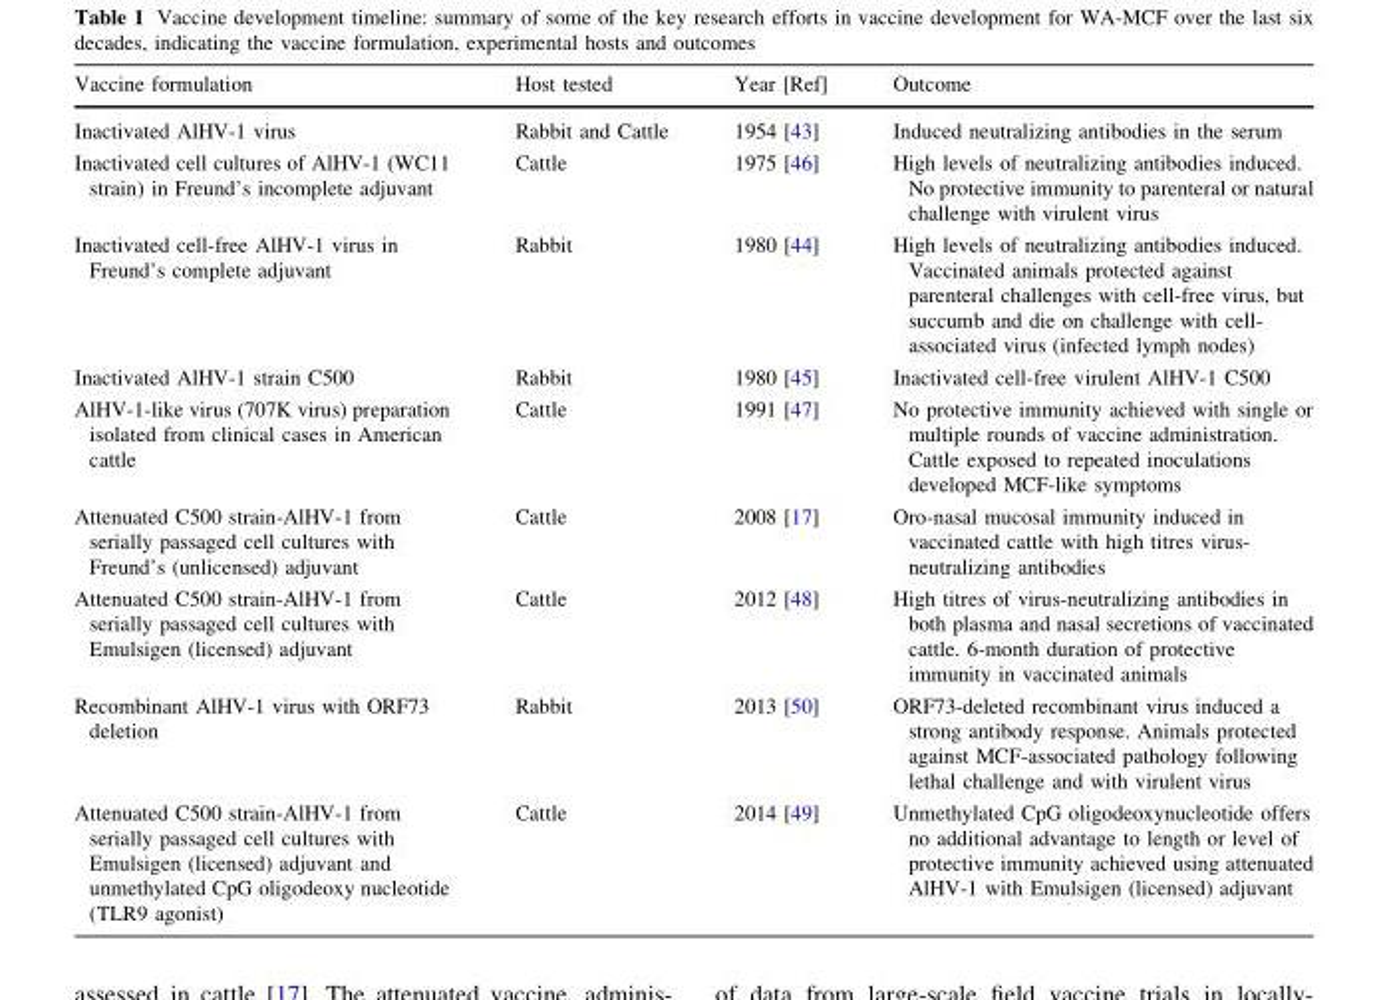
<table><thead><tr><td>Vaccine formulation</td><td>Host tested</td><td>Year [Ref]</td><td>Outcome</td></tr></thead><tbody><tr><td>Inactivated AlHV-1 virus</td><td>Rabbit and Cattle</td><td>1954 [43]</td><td>Induced neutralizing antibodies in the serum</td></tr><tr><td>Inactivated cell cultures of AlHV-1 (WC11 strain) in Freund’s incomplete adjuvant</td><td>Cattle</td><td>1975 [46]</td><td>High levels of neutralizing antibodies induced. No protective immunity to parenteral or natural challenge with virulent virus</td></tr><tr><td>Inactivated cell-free AlHV-1 virus in Freund’s complete adjuvant</td><td>Rabbit</td><td>1980 [44]</td><td>High levels of neutralizing antibodies induced. Vaccinated animals protected against parenteral challenges with cell-free virus, but succumb and die on challenge with cell- associated virus (infected lymph nodes)</td></tr><tr><td>Inactivated AlHV-1 strain C500</td><td>Rabbit</td><td>1980 [45]</td><td>Inactivated cell-free virulent AlHV-1 C500</td></tr><tr><td>AlHV-1-like virus (707K virus) preparation isolated from clinical cases in American cattle</td><td>Cattle</td><td>1991 [47]</td><td>No protective immunity achieved with single or multiple rounds of vaccine administration. Cattle exposed to repeated inoculations developed MCF-like symptoms</td></tr><tr><td>Attenuated C500 strain-AlHV-1 from serially passaged cell cultures with Freund’s (unlicensed) adjuvant</td><td>Cattle</td><td>2008 [17]</td><td>Oro-nasal mucosal immunity induced in vaccinated cattle with high titres virus- neutralizing antibodies</td></tr><tr><td>Attenuated C500 strain-AlHV-1 from serially passaged cell cultures with Emulsigen (licensed) adjuvant</td><td>Cattle</td><td>2012 [48]</td><td>High titres of virus-neutralizing antibodies in both plasma and nasal secretions of vaccinated cattle. 6-month duration of protective immunity in vaccinated animals</td></tr><tr><td>Recombinant AlHV-1 virus with ORF73 deletion</td><td>Rabbit</td><td>2013 [50]</td><td>ORF73-deleted recombinant virus induced a strong antibody response. Animals protected against MCF-associated pathology following lethal challenge and with virulent virus</td></tr><tr><td>Attenuated C500 strain-AlHV-1 from serially passaged cell cultures with Emulsigen (licensed) adjuvant and unmethylated CpG oligodeoxy nucleotide (TLR9 agonist)</td><td>Cattle</td><td>2014 [49]</td><td>Unmethylated CpG oligodeoxynucleotide offers no additional advantage to length or level of protective immunity achieved using attenuated AlHV-1 with Emulsigen (licensed) adjuvant</td></tr></tbody></table>